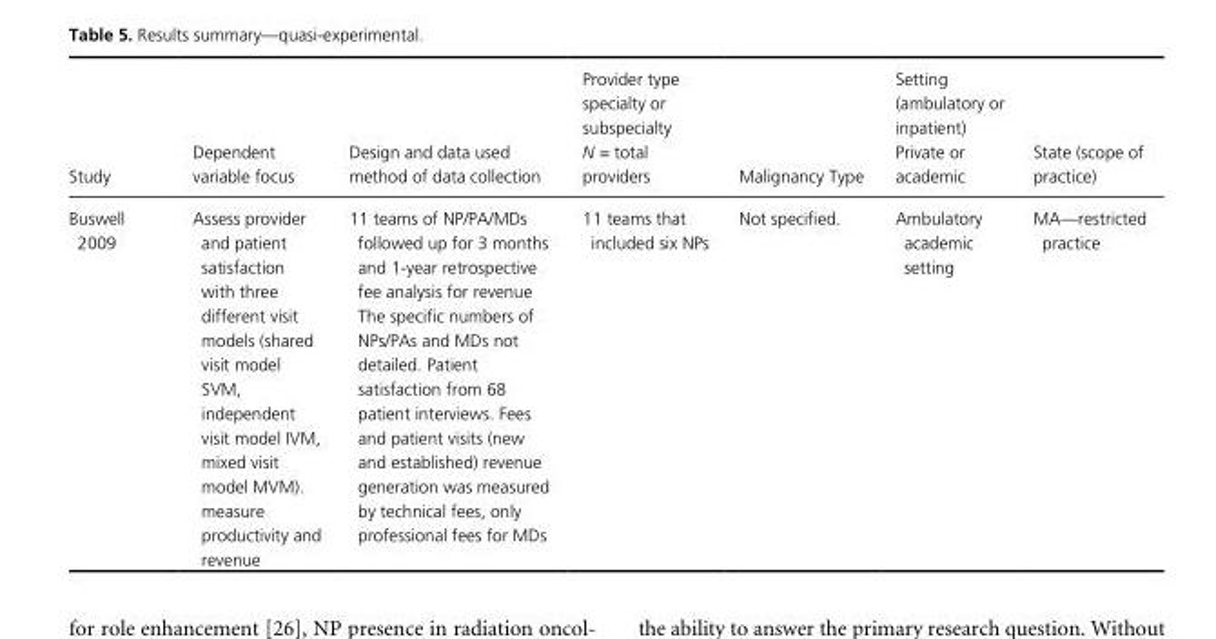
<table><thead><tr><td>Study</td><td>Dependent variable focus</td><td>Design and data used method of data collection</td><td>Provider type specialty or subspecialty N = total providers</td><td>Malignancy Type</td><td>Setting (ambulatory or inpatient) Private or academic</td><td>State (scope of practice)</td></tr></thead><tbody><tr><td>Buswell 2009</td><td>Assess provider and patient satisfaction with three different visit models (shared visit model SVM, independent visit model IVM, mixed visit model MVM). measure productivity and revenue</td><td>11 teams of NP/PA/MDs followed up for 3 months and 1- year retrospective fee analysis for revenue The specific numbers of NPs/PAs and MDs not detailed. Patient satisfaction from 68 patient interviews. Fees and patient visits (new and established) revenue generation was measured by technical fees, only professional fees for MDs</td><td>11 teams that included six NPs</td><td>Not specified.</td><td>Ambulatory academic setting</td><td>MA—restricted practice</td></tr></tbody></table>